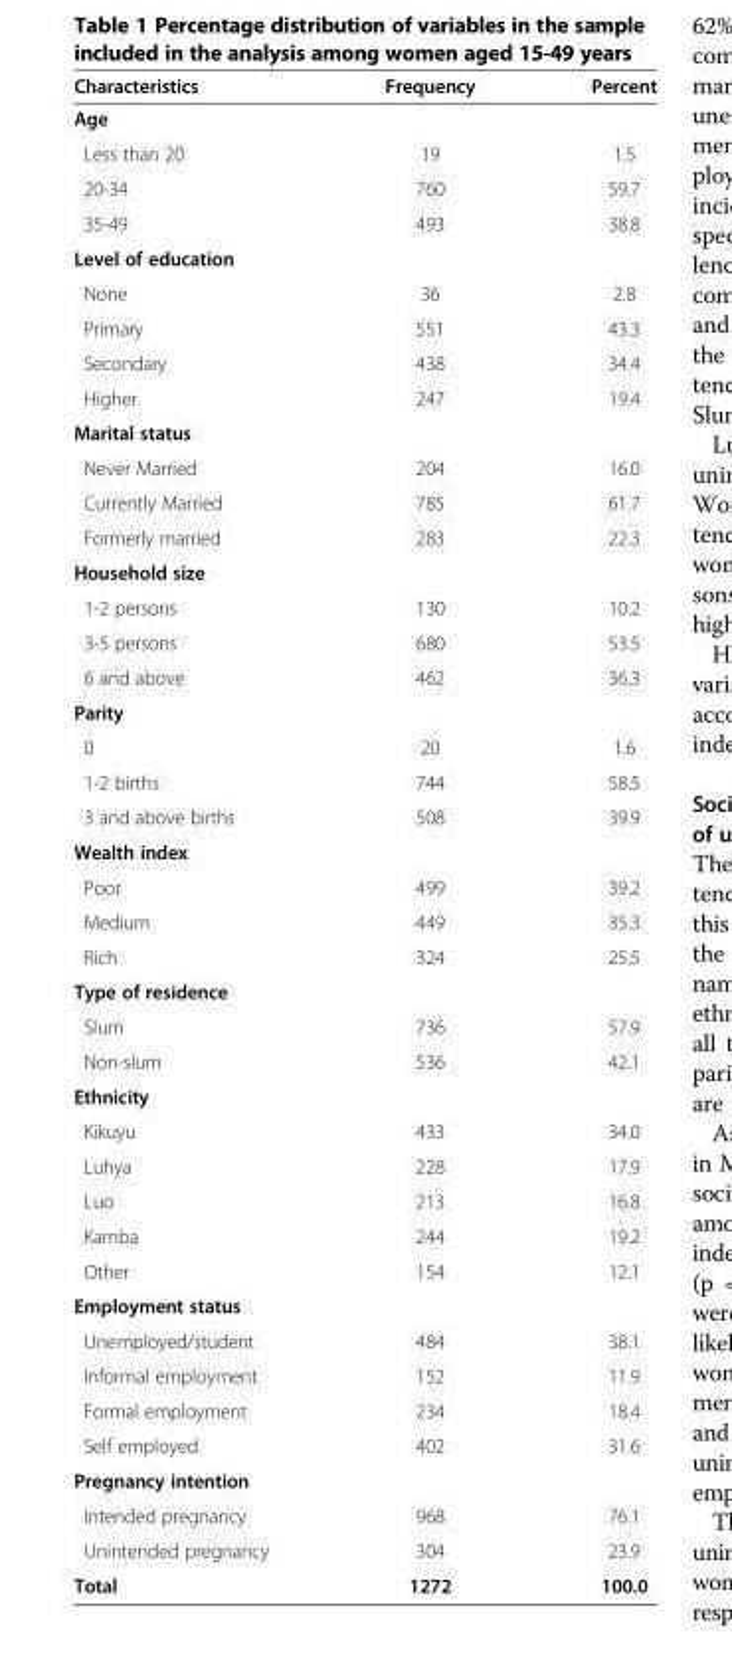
<table><thead><tr><td>Characteristics</td><td>Frequency</td><td>Percent</td></tr></thead><tbody><tr><td colspan="3">Age</td></tr><tr><td>Less than 20</td><td>19</td><td>1.5</td></tr><tr><td>20-34</td><td>760</td><td>59.7</td></tr><tr><td>35-49</td><td>493</td><td>38.8</td></tr><tr><td colspan="3">Level of education</td></tr><tr><td>None</td><td>36</td><td>2.8</td></tr><tr><td>Primary</td><td>551</td><td>43.3</td></tr><tr><td>Secondary</td><td>438</td><td>34.4</td></tr><tr><td>Higher</td><td>247</td><td>19.4</td></tr><tr><td colspan="3">Marital status</td></tr><tr><td>Never Married</td><td>204</td><td>16.0</td></tr><tr><td>Currently Married</td><td>785</td><td>61.7</td></tr><tr><td>Formerly married</td><td>283</td><td>22.3</td></tr><tr><td colspan="3">Household size</td></tr><tr><td>1-2 persons</td><td>130</td><td>10.2</td></tr><tr><td>3-5 persons</td><td>680</td><td>53.5</td></tr><tr><td>6 and above</td><td>462</td><td>36.3</td></tr><tr><td colspan="3">Parity</td></tr><tr><td>0</td><td>20</td><td>1.6</td></tr><tr><td>1-2 births</td><td>744</td><td>58.5</td></tr><tr><td>3 and above births</td><td>508</td><td>39.9</td></tr><tr><td colspan="3">Wealth index</td></tr><tr><td>Poor</td><td>499</td><td>39.2</td></tr><tr><td>Medium</td><td>449</td><td>35.3</td></tr><tr><td>Rich</td><td>324</td><td>25.5</td></tr><tr><td colspan="3">Type of residence</td></tr><tr><td>Slum</td><td>736</td><td>57.9</td></tr><tr><td>Non-slum</td><td>536</td><td>42.1</td></tr><tr><td colspan="3">Ethnicity</td></tr><tr><td>Kikuyu</td><td>433</td><td>34.0</td></tr><tr><td>Luhya</td><td>228</td><td>17.9</td></tr><tr><td>Luo</td><td>213</td><td>16.8</td></tr><tr><td>Kamba</td><td>244</td><td>19.2</td></tr><tr><td>Other</td><td>154</td><td>12.1</td></tr><tr><td colspan="3">Employment status</td></tr><tr><td>Unemployed/student</td><td>484</td><td>38.1</td></tr><tr><td>Informal employment</td><td>152</td><td>11.9</td></tr><tr><td>Formal employment</td><td>234</td><td>18.4</td></tr><tr><td>Self employed</td><td>402</td><td>31.6</td></tr><tr><td colspan="3">Pregnancy intention</td></tr><tr><td>Intended pregnancy</td><td>968</td><td>76.1</td></tr><tr><td>Unintended pregnancy</td><td>304</td><td>23.9</td></tr><tr><td>Total</td><td>1272</td><td>100.0</td></tr></tbody></table>